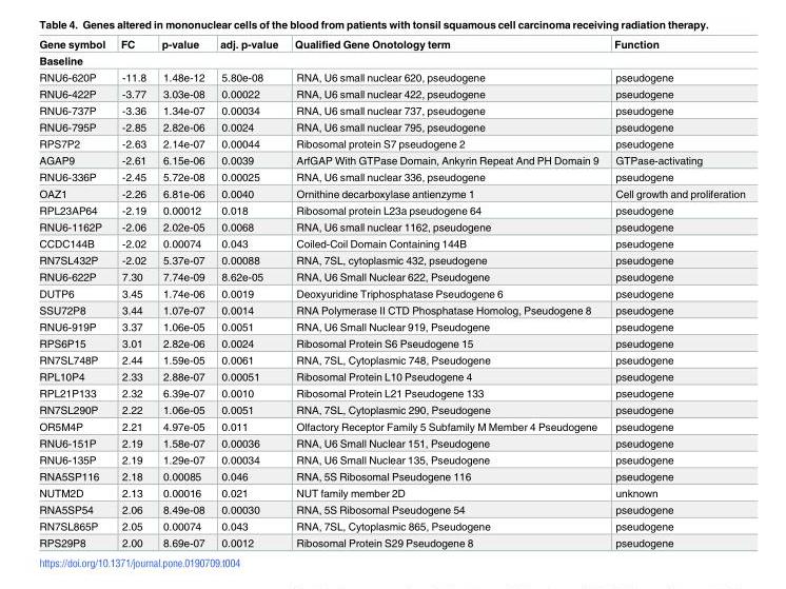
<table><thead><tr><td>Gene symbol</td><td>FC</td><td>p-value</td><td>adj. p-value</td><td>Qualified Gene Onotology term</td><td>Function</td></tr></thead><tbody><tr><td colspan="6">Baseline</td></tr><tr><td>RNU6-620P</td><td>-11.8</td><td>1.48e-12</td><td>5.80e-08</td><td>RNA, U6 small nuclear 620, pseudogene</td><td>pseudogene</td></tr><tr><td>RNU6-422P</td><td>-3.77</td><td>3.03e-08</td><td>0.00022</td><td>RNA, U6 small nuclear 422, pseudogene</td><td>pseudogene</td></tr><tr><td>RNU6-737P</td><td>-3.36</td><td>1.34e-07</td><td>0.00034</td><td>RNA, U6 small nuclear 737, pseudogene</td><td>pseudogene</td></tr><tr><td>RNU6-795P</td><td>-2.85</td><td>2.82e-06</td><td>0.0024</td><td>RNA, U6 small nuclear 795, pseudogene</td><td>pseudogene</td></tr><tr><td>RPS7P2</td><td>-2.63</td><td>2.14e-07</td><td>0.00044</td><td>Ribosomal protein S7 pseudogene 2</td><td>pseudogene</td></tr><tr><td>AGAP9</td><td>-2.61</td><td>6.15e-06</td><td>0.0039</td><td>ArfGAP With GTPase Domain, Ankyrin Repeat And PH Domain 9</td><td>GTPase-activating</td></tr><tr><td>RNU6-336P</td><td>-2.45</td><td>5.72e-08</td><td>0.00025</td><td>RNA, U6 small nuclear 336, pseudogene</td><td>pseudogene</td></tr><tr><td>OAZ1</td><td>-2.26</td><td>6.81e-06</td><td>0.0040</td><td>Ornithine decarboxylase antienzyme 1</td><td>Cell growth and proliferation</td></tr><tr><td>RPL23AP64</td><td>-2.19</td><td>0.00012</td><td>0.018</td><td>Ribosomal protein L23a pseudogene 64</td><td>pseudogene</td></tr><tr><td>RNU6-1162P</td><td>-2.06</td><td>2.02e-05</td><td>0.0068</td><td>RNA, U6 small nuclear 1162, pseudogene</td><td>pseudogene</td></tr><tr><td>CCDC144B</td><td>-2.02</td><td>0.00074</td><td>0.043</td><td>Coiled-Coil Domain Containing 144B</td><td>pseudogene</td></tr><tr><td>RN7SL432P</td><td>-2.02</td><td>5.37e-07</td><td>0.00088</td><td>RNA, 7SL, cytoplasmic 432, pseudogene</td><td>pseudogene</td></tr><tr><td>RNU6-622P</td><td>7.30</td><td>7.74e-09</td><td>8.62e-05</td><td>RNA, U6 Small Nuclear 622, Pseudogene</td><td>pseudogene</td></tr><tr><td>DUTP6</td><td>3.45</td><td>1.74e-06</td><td>0.0019</td><td>Deoxyuridine Triphosphatase Pseudogene 6</td><td>pseudogene</td></tr><tr><td>SSU72P8</td><td>3.44</td><td>1.07e-07</td><td>0.0014</td><td>RNA Polymerase II CTD Phosphatase Homolog, Pseudogene 8</td><td>pseudogene</td></tr><tr><td>RNU6-919P</td><td>3.37</td><td>1.06e-05</td><td>0.0051</td><td>RNA, U6 Small Nuclear 919, Pseudogene</td><td>pseudogene</td></tr><tr><td>RPS6P15</td><td>3.01</td><td>2.82e-06</td><td>0.0024</td><td>Ribosomal Protein S6 Pseudogene 15</td><td>pseudogene</td></tr><tr><td>RN7SL748P</td><td>2.44</td><td>1.59e-05</td><td>0.0061</td><td>RNA, 7SL, Cytoplasmic 748, Pseudogene</td><td>pseudogene</td></tr><tr><td>RPL10P4</td><td>2.33</td><td>2.88e-07</td><td>0.00051</td><td>Ribosomal Protein L10 Pseudogene 4</td><td>pseudogene</td></tr><tr><td>RPL21P133</td><td>2.32</td><td>6.39e-07</td><td>0.0010</td><td>Ribosomal Protein L21 Pseudogene 133</td><td>pseudogene</td></tr><tr><td>RN7SL290P</td><td>2.22</td><td>1.06e-05</td><td>0.0051</td><td>RNA, 7SL, Cytoplasmic 290, Pseudogene</td><td>pseudogene</td></tr><tr><td>OR5M4P</td><td>2.21</td><td>4.97e-05</td><td>0.011</td><td>Olfactory Receptor Family 5 Subfamily M Member 4 Pseudogene</td><td>pseudogene</td></tr><tr><td>RNU6-151P</td><td>2.19</td><td>1.58e-07</td><td>0.00036</td><td>RNA, U6 Small Nuclear 151, Pseudogene</td><td>pseudogene</td></tr><tr><td>RNU6-135P</td><td>2.19</td><td>1.29e-07</td><td>0.00034</td><td>RNA, U6 Small Nuclear 135, Pseudogene</td><td>pseudogene</td></tr><tr><td>RNA5SP116</td><td>2.18</td><td>0.00085</td><td>0.046</td><td>RNA, 5S Ribosomal Pseudogene 116</td><td>pseudogene</td></tr><tr><td>NUTM2D</td><td>2.13</td><td>0.00016</td><td>0.021</td><td>NUT family member 2D</td><td>unknown</td></tr><tr><td>RNA5SP54</td><td>2.06</td><td>8.49e-08</td><td>0.00030</td><td>RNA, 5S Ribosomal Pseudogene 54</td><td>pseudogene</td></tr><tr><td>RN7SL865P</td><td>2.05</td><td>0.00074</td><td>0.043</td><td>RNA, 7SL, Cytoplasmic 865, Pseudogene</td><td>pseudogene</td></tr><tr><td>RPS29P8</td><td>2.00</td><td>8.69e-07</td><td>0.0012</td><td>Ribosomal Protein S29 Pseudogene 8</td><td>pseudogene</td></tr></tbody></table>